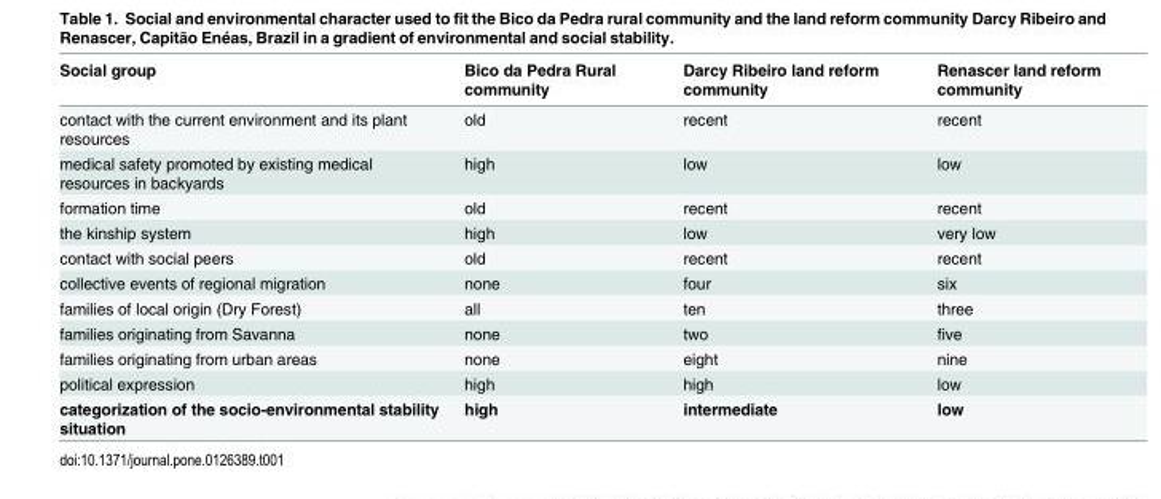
<table><thead><tr><td>Social group</td><td>Bico da Pedra Rural community</td><td>Darcy Ribeiro land reform community</td><td>Renascer land reform community</td></tr></thead><tbody><tr><td>contact with the current environment and its plant resources</td><td>old</td><td>recent</td><td>recent</td></tr><tr><td>medical safety promoted by existing medical resources in backyards</td><td>high</td><td>low</td><td>low</td></tr><tr><td>formation time</td><td>old</td><td>recent</td><td>recent</td></tr><tr><td>the kinship system</td><td>high</td><td>low</td><td>very low</td></tr><tr><td>contact with social peers</td><td>old</td><td>recent</td><td>recent</td></tr><tr><td>collective events of regional migration</td><td>none</td><td>four</td><td>six</td></tr><tr><td>families of local origin (Dry Forest)</td><td>all</td><td>ten</td><td>three</td></tr><tr><td>families originating from Savanna</td><td>none</td><td>two</td><td>five</td></tr><tr><td>families originating from urban areas</td><td>none</td><td>eight</td><td>nine</td></tr><tr><td>political expression</td><td>high</td><td>high</td><td>low</td></tr><tr><td>categorization of the socio-environmental stability situation</td><td>high</td><td>intermediate</td><td>low</td></tr></tbody></table>